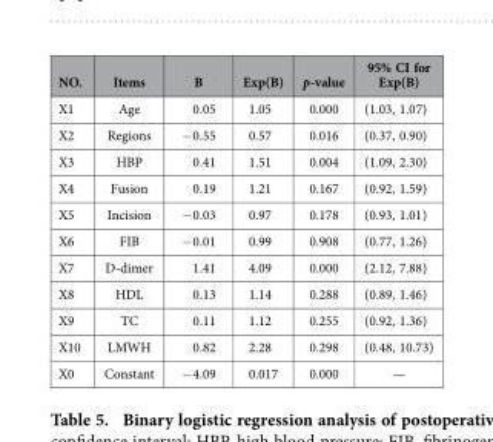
<table><thead><tr><td>NO.</td><td>Items</td><td>B</td><td>Exp(B)</td><td>p-value</td><td>95% CI for Exp(B)</td></tr></thead><tbody><tr><td>X1</td><td>Age</td><td>0.05</td><td>1.05</td><td>0.000</td><td>(1.03, 1.07)</td></tr><tr><td>X2</td><td>Regions</td><td>− 0.55</td><td>0.57</td><td>0.016</td><td>(0.37, 0.90)</td></tr><tr><td>X3</td><td>HBP</td><td>0.41</td><td>1.51</td><td>0.004</td><td>(1.09, 2.30)</td></tr><tr><td>X4</td><td>Fusion</td><td>0.19</td><td>1.21</td><td>0.167</td><td>(0.92, 1.59)</td></tr><tr><td>X5</td><td>Incision</td><td>− 0.03</td><td>0.97</td><td>0.178</td><td>(0.93, 1.01)</td></tr><tr><td>X6</td><td>FIB</td><td>− 0.01</td><td>0.99</td><td>0.908</td><td>(0.77, 1.26)</td></tr><tr><td>X7</td><td>D-dimer</td><td>1.41</td><td>4.09</td><td>0.000</td><td>(2.12, 7.88)</td></tr><tr><td>X8</td><td>HDL</td><td>0.13</td><td>1.14</td><td>0.288</td><td>(0.89, 1.46)</td></tr><tr><td>X9</td><td>TC</td><td>0.11</td><td>1.12</td><td>0.255</td><td>(0.92, 1.36)</td></tr><tr><td>X10</td><td>LMWH</td><td>0.82</td><td>2.28</td><td>0.298</td><td>(0.48, 10.73)</td></tr><tr><td>X0</td><td>Constant</td><td>− 4.09</td><td>0.017</td><td>0.000</td><td>—</td></tr></tbody></table>